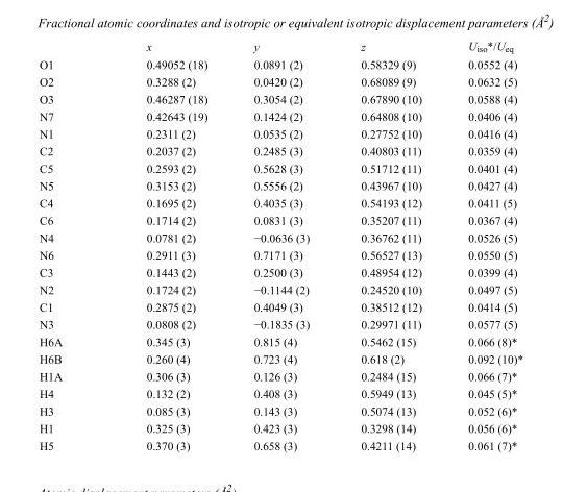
<table><thead><tr><td></td><td>x</td><td>y</td><td>z</td><td>U<sub>iso</sub>*/U<sub>eq</sub></td></tr></thead><tbody><tr><td>O1</td><td>0.49052 (18)</td><td>0.0891 (2)</td><td>0.58329 (9)</td><td>0.0552 (4)</td></tr><tr><td>O2</td><td>0.3288 (2)</td><td>0.0420 (2)</td><td>0.68089 (9)</td><td>0.0632 (5)</td></tr><tr><td>O3</td><td>0.46287 (18)</td><td>0.3054 (2)</td><td>0.67890 (10)</td><td>0.0588 (4)</td></tr><tr><td>N7</td><td>0.42643 (19)</td><td>0.1424 (2)</td><td>0.64808 (10)</td><td>0.0406 (4)</td></tr><tr><td>N1</td><td>0.2311 (2)</td><td>0.0535 (2)</td><td>0.27752 (10)</td><td>0.0416 (4)</td></tr><tr><td>C2</td><td>0.2037 (2)</td><td>0.2485 (3)</td><td>0.40803 (11)</td><td>0.0359 (4)</td></tr><tr><td>C5</td><td>0.2593 (2)</td><td>0.5628 (3)</td><td>0.51712 (11)</td><td>0.0401 (4)</td></tr><tr><td>N5</td><td>0.3153 (2)</td><td>0.5556 (2)</td><td>0.43967 (10)</td><td>0.0427 (4)</td></tr><tr><td>C4</td><td>0.1695 (2)</td><td>0.4035 (3)</td><td>0.54193 (12)</td><td>0.0411 (5)</td></tr><tr><td>C6</td><td>0.1714 (2)</td><td>0.0831 (3)</td><td>0.35207 (11)</td><td>0.0367 (4)</td></tr><tr><td>N4</td><td>0.0781 (2)</td><td>−0.0636 (3)</td><td>0.36762 (11)</td><td>0.0526 (5)</td></tr><tr><td>N6</td><td>0.2911 (3)</td><td>0.7171 (3)</td><td>0.56527 (13)</td><td>0.0550 (5)</td></tr><tr><td>C3</td><td>0.1443 (2)</td><td>0.2500 (3)</td><td>0.48954 (12)</td><td>0.0399 (4)</td></tr><tr><td>N2</td><td>0.1724 (2)</td><td>−0.1144 (2)</td><td>0.24520 (10)</td><td>0.0497 (5)</td></tr><tr><td>C1</td><td>0.2875 (2)</td><td>0.4049 (3)</td><td>0.38512 (12)</td><td>0.0414 (5)</td></tr><tr><td>N3</td><td>0.0808 (2)</td><td>−0.1835 (3)</td><td>0.29971 (11)</td><td>0.0577 (5)</td></tr><tr><td>H6A</td><td>0.345 (3)</td><td>0.815 (4)</td><td>0.5462 (15)</td><td>0.066 (8)*</td></tr><tr><td>H6B</td><td>0.260 (4)</td><td>0.723 (4)</td><td>0.618 (2)</td><td>0.092 (10)*</td></tr><tr><td>H1A</td><td>0.306 (3)</td><td>0.126 (3)</td><td>0.2484 (15)</td><td>0.066 (7)*</td></tr><tr><td>H4</td><td>0.132 (2)</td><td>0.408 (3)</td><td>0.5949 (13)</td><td>0.045 (5)*</td></tr><tr><td>H3</td><td>0.085 (3)</td><td>0.143 (3)</td><td>0.5074 (13)</td><td>0.052 (6)*</td></tr><tr><td>H1</td><td>0.325 (3)</td><td>0.423 (3)</td><td>0.3298 (14)</td><td>0.056 (6)*</td></tr><tr><td>H5</td><td>0.370 (3)</td><td>0.658 (3)</td><td>0.4211 (14)</td><td>0.061 (7)*</td></tr></tbody></table>